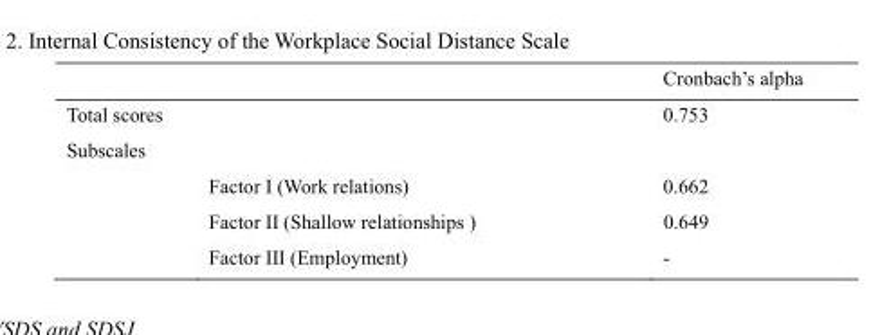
<table><thead><tr><td></td><td></td><td>Cronbach’s alpha</td></tr></thead><tbody><tr><td>Total scores</td><td></td><td>0.753</td></tr><tr><td colspan="3">Subscales</td></tr><tr><td></td><td>Factor I (Work relations)</td><td>0.662</td></tr><tr><td></td><td>Factor II (Shallow relationships )</td><td>0.649</td></tr><tr><td></td><td>Factor III (Employment)</td><td>-</td></tr></tbody></table>